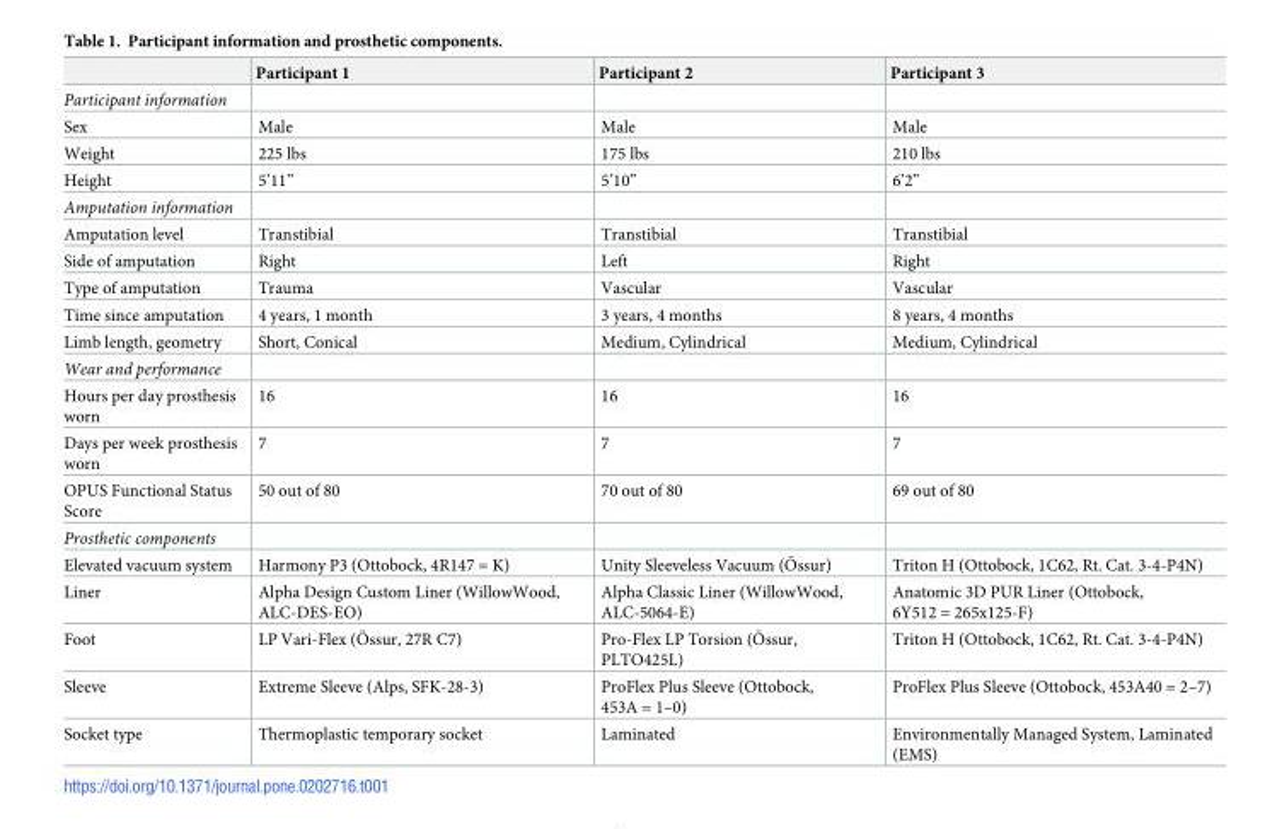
<table><thead><tr><td></td><td>Participant 1</td><td>Participant 2</td><td>Participant 3</td></tr></thead><tbody><tr><td colspan="4">Participant information</td></tr><tr><td>Sex</td><td>Male</td><td>Male</td><td>Male</td></tr><tr><td>Weight</td><td>225 lbs</td><td>175 lbs</td><td>210 lbs</td></tr><tr><td>Height</td><td>5’11”</td><td>5’10”</td><td>6’2”</td></tr><tr><td colspan="4">Amputation information</td></tr><tr><td>Amputation level</td><td>Transtibial</td><td>Transtibial</td><td>Transtibial</td></tr><tr><td>Side of amputation</td><td>Right</td><td>Left</td><td>Right</td></tr><tr><td>Type of amputation</td><td>Trauma</td><td>Vascular</td><td>Vascular</td></tr><tr><td>Time since amputation</td><td>4 years, 1 month</td><td>3 years, 4 months</td><td>8 years, 4 months</td></tr><tr><td>Limb length, geometry</td><td>Short, Conical</td><td>Medium, Cylindrical</td><td>Medium, Cylindrical</td></tr><tr><td colspan="4">Wear and performance</td></tr><tr><td>Hours per day prosthesis worn</td><td>16</td><td>16</td><td>16</td></tr><tr><td>Days per week prosthesis worn</td><td>7</td><td>7</td><td>7</td></tr><tr><td>OPUS Functional Status Score</td><td>50 out of 80</td><td>70 out of 80</td><td>69 out of 80</td></tr><tr><td colspan="4">Prosthetic components</td></tr><tr><td>Elevated vacuum system</td><td>Harmony P3 (Ottobock, 4R147 = K)</td><td>Unity Sleeveless Vacuum (O¨ ssur)</td><td>Triton H (Ottobock, 1C62, Rt. Cat. 3-4-P4N)</td></tr><tr><td>Liner</td><td>Alpha Design Custom Liner (WillowWood, ALC-DES-EO)</td><td>Alpha Classic Liner (WillowWood, ALC-5064-E)</td><td>Anatomic 3D PUR Liner (Ottobock, 6Y512 = 265x125-F)</td></tr><tr><td>Foot</td><td>LP Vari-Flex (O¨ ssur, 27R C7)</td><td>Pro-Flex LP Torsion (O¨ ssur, PLTO425L)</td><td>Triton H (Ottobock, 1C62, Rt. Cat. 3-4-P4N)</td></tr><tr><td>Sleeve</td><td>Extreme Sleeve (Alps, SFK-28-3)</td><td>ProFlex Plus Sleeve (Ottobock, 453A = 1–0)</td><td>ProFlex Plus Sleeve (Ottobock, 453A40 = 2–7)</td></tr><tr><td>Socket type</td><td>Thermoplastic temporary socket</td><td>Laminated</td><td>Environmentally Managed System, Laminated (EMS)</td></tr></tbody></table>